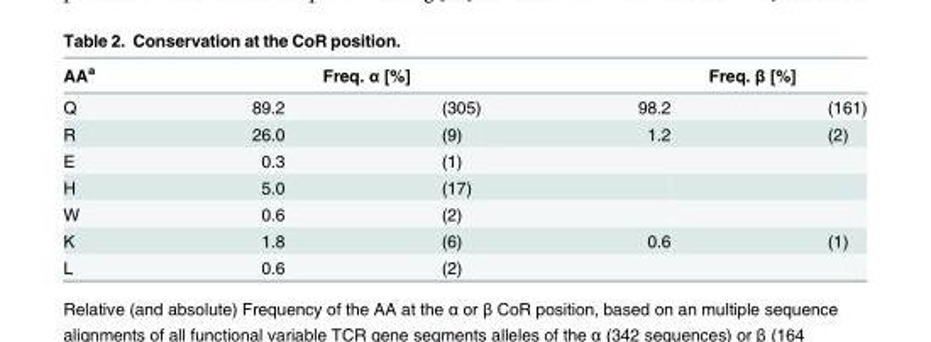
<table><thead><tr><td rowspan="2">AA<sup>a</sup> Q</td><td colspan="2">Freq. α [%]</td><td colspan="2">Freq. β [%]</td></tr><tr><td>89.2</td><td>(305)</td><td>98.2</td><td>(161)</td></tr></thead><tbody><tr><td>R</td><td>26.0</td><td>(9)</td><td>1.2</td><td>(2)</td></tr><tr><td>E</td><td>0.3</td><td>(1)</td><td></td><td></td></tr><tr><td>H</td><td>5.0</td><td>(17)</td><td></td><td></td></tr><tr><td>W</td><td>0.6</td><td>(2)</td><td></td><td></td></tr><tr><td>K</td><td>1.8</td><td>(6)</td><td>0.6</td><td>(1)</td></tr><tr><td>L</td><td>0.6</td><td>(2)</td><td></td><td></td></tr></tbody></table>